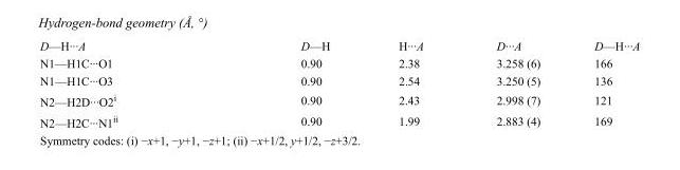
<table><tbody><tr><td>D—H···A</td><td>D—H</td><td>H···A</td><td>D···A</td><td>D—H···A</td></tr><tr><td>N1—H1C···O1</td><td>0.90</td><td>2.38</td><td>3.258 (6)</td><td>166</td></tr><tr><td>N1—H1C···O3</td><td>0.90</td><td>2.54</td><td>3.250 (5)</td><td>136</td></tr><tr><td>N2—H2D···O2<sup>i</sup></td><td>0.90</td><td>2.43</td><td>2.998 (7)</td><td>121</td></tr><tr><td>N2—H2C···N1<sup>ii</sup></td><td>0.90</td><td>1.99</td><td>2.883 (4)</td><td>169</td></tr></tbody></table>